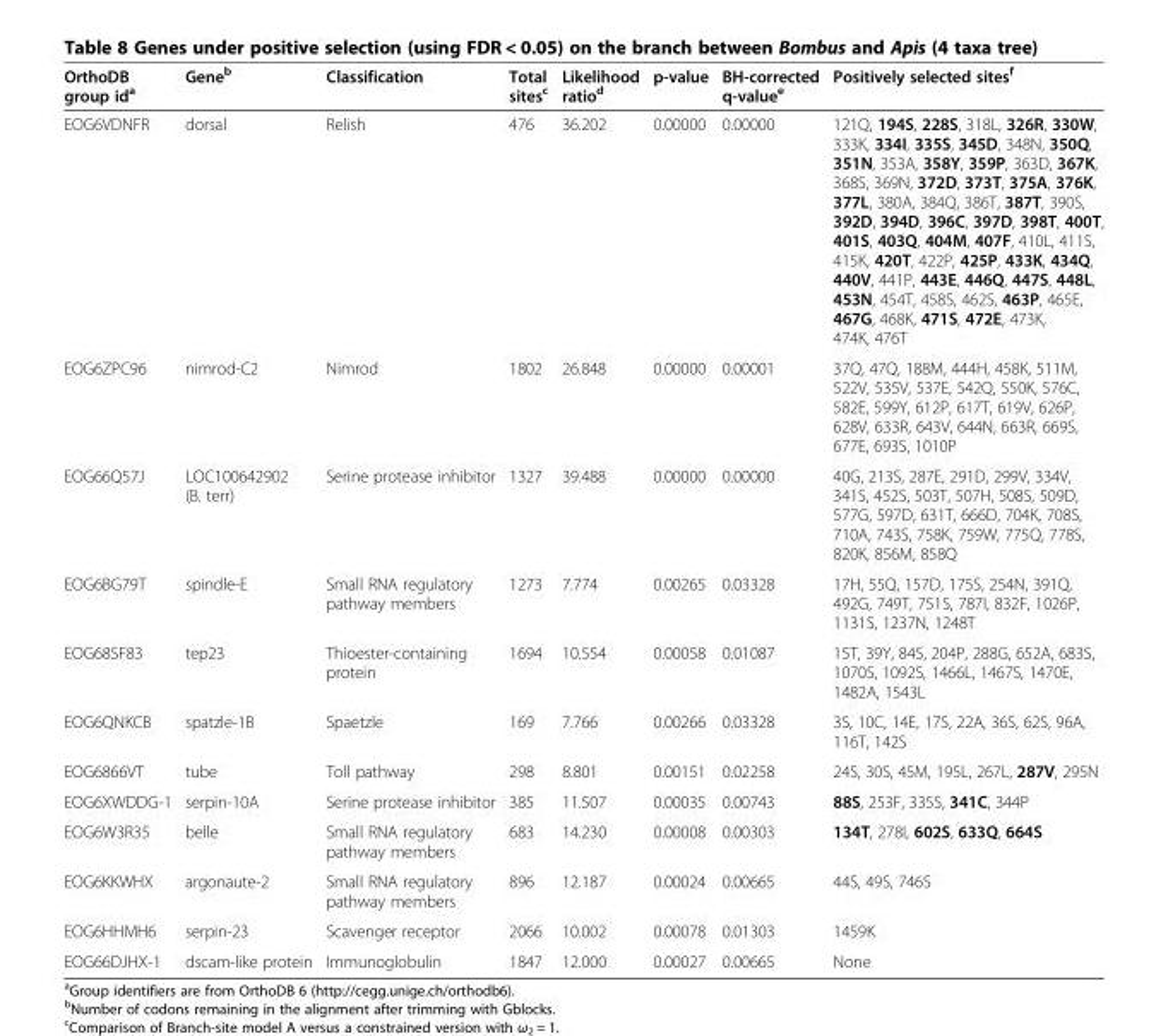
<table><thead><tr><td>OrthoDB group id<sup>a</sup></td><td>Gene<sup>b</sup></td><td>Classification</td><td>Total sites<sup>c</sup></td><td>Likelihood ratio<sup>d</sup></td><td>p-value</td><td>BH-corrected q-value<sup>e</sup></td><td>Positively selected sites<sup>f</sup></td></tr></thead><tbody><tr><td>EOG6VDNFR</td><td>dorsal</td><td>Relish</td><td>476</td><td>36.202</td><td>0.00000</td><td>0.00000</td><td>121Q, 194S, 228S, 318L, 326R, 330W, 333K, 334I, 335S, 345D, 348N, 350Q, 351N, 353A, 358Y, 359P, 363D, 367K, 368S, 369N, 372D, 373T, 375A, 376K, 377L, 380A, 384Q, 386T, 387T, 390S, 392D, 394D, 396C, 397D, 398T, 400T, 401S, 403Q, 404M, 407F, 410L, 411S, 415K, 420T, 422P, 425P, 433K, 434Q, 440V, 441P, 443E, 446Q, 447S, 448L, 453N, 454T, 458S, 462S, 463P, 465E, 467G, 468K, 471S, 472E, 473K, 474K, 476T</td></tr><tr><td>EOG6ZPC96</td><td>nimrod-C2</td><td>Nimrod</td><td>1802</td><td>26.848</td><td>0.00000</td><td>0.00001</td><td>37Q, 47Q, 188M, 444H, 458K, 511M, 522V, 535V, 537E, 542Q, 550K, 576C, 582E, 599Y, 612P, 617T, 619V, 626P, 628V, 633R, 643V, 644N, 663R, 669S, 677E, 693S, 1010P</td></tr><tr><td>EOG66Q57J</td><td>LOC100642902 (B. terr)</td><td>Serine protease inhibitor</td><td>1327</td><td>39.488</td><td>0.00000</td><td>0.00000</td><td>40G, 213S, 287E, 291D, 299V, 334V, 341S, 452S, 503T, 507H, 508S, 509D, 577G, 597D, 631T, 666D, 704K, 708S, 710A, 743S, 758K, 759W, 775Q, 778S, 820K, 856M, 858Q</td></tr><tr><td>EOG6BG79T</td><td>spindle-E</td><td>Small RNA regulatory pathway members</td><td>1273</td><td>7.774</td><td>0.00265</td><td>0.03328</td><td>17H, 55Q, 157D, 175S, 254N, 391Q, 492G, 749T, 751S, 787I, 832F, 1026P, 1131S, 1237N, 1248T</td></tr><tr><td>EOG68SF83</td><td>tep23</td><td>Thioester-containing protein</td><td>1694</td><td>10.554</td><td>0.00058</td><td>0.01087</td><td>15T, 39Y, 84S, 204P, 288G, 652A, 683S, 1070S, 1092S, 1466L, 1467S, 1470E, 1482A, 1543L</td></tr><tr><td>EOG6QNKCB</td><td>spatzle-1B</td><td>Spaetzle</td><td>169</td><td>7.766</td><td>0.00266</td><td>0.03328</td><td>3S, 10C, 14E, 17S, 22A, 36S, 62S, 96A, 116T, 142S</td></tr><tr><td>EOG6866VT</td><td>tube</td><td>Toll pathway</td><td>298</td><td>8.801</td><td>0.00151</td><td>0.02258</td><td>24S, 30S, 45M, 195L, 267L, 287V, 295N</td></tr><tr><td>EOG6XWDDG-1</td><td>serpin-10A</td><td>Serine protease inhibitor</td><td>385</td><td>11.507</td><td>0.00035</td><td>0.00743</td><td>88S, 253F, 335S, 341C, 344P</td></tr><tr><td>EOG6W3R35</td><td>belle</td><td>Small RNA regulatory pathway members</td><td>683</td><td>14.230</td><td>0.00008</td><td>0.00303</td><td>134T, 278I, 602S, 633Q, 664S</td></tr><tr><td>EOG6KKWHX</td><td>argonaute-2</td><td>Small RNA regulatory pathway members</td><td>896</td><td>12.187</td><td>0.00024</td><td>0.00665</td><td>44S, 49S, 746S</td></tr><tr><td>EOG6HHMH6</td><td>serpin-23</td><td>Scavenger receptor</td><td>2066</td><td>10.002</td><td>0.00078</td><td>0.01303</td><td>1459K</td></tr><tr><td>EOG66DJHX-1</td><td>dscam-like protein</td><td>Immunoglobulin</td><td>1847</td><td>12.000</td><td>0.00027</td><td>0.00665</td><td>None</td></tr></tbody></table>